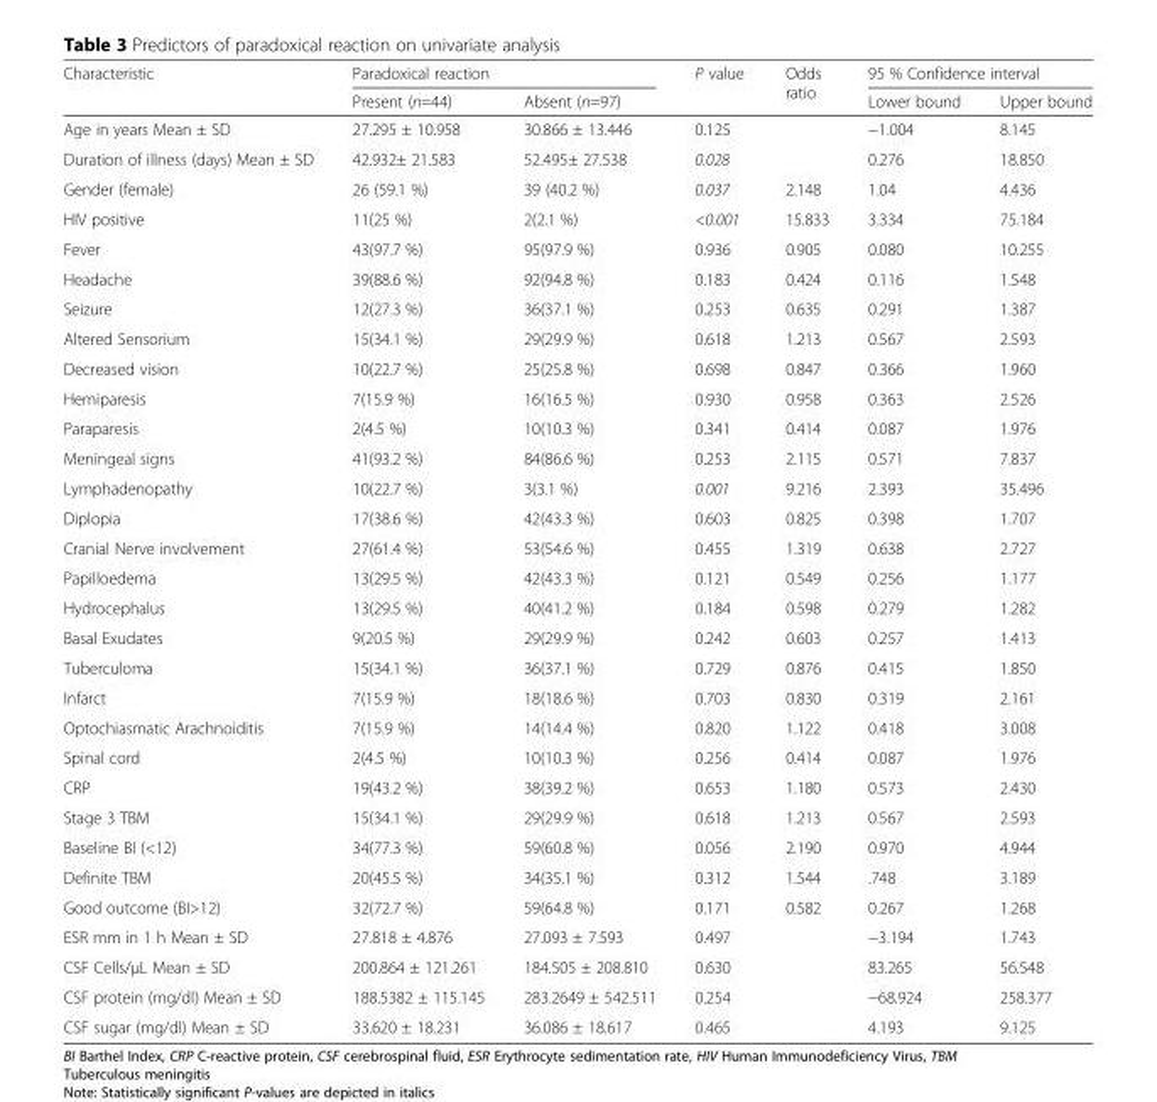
<table><thead><tr><td rowspan="2">Characteristic</td><td colspan="2">Paradoxical reaction</td><td rowspan="2">P value</td><td rowspan="2">Odds ratio</td><td colspan="2">95 % Confidence interval</td></tr><tr><td>Present (n=44)</td><td>Absent (n=97)</td><td>Lower bound</td><td>Upper bound</td></tr></thead><tbody><tr><td>Age in years Mean ± SD</td><td>27.295 ± 10.958</td><td>30.866 ± 13.446</td><td>0.125</td><td></td><td>−1.004</td><td>8.145</td></tr><tr><td>Duration of illness (days) Mean ± SD</td><td>42.932± 21.583</td><td>52.495± 27.538</td><td>0.028</td><td></td><td>0.276</td><td>18.850</td></tr><tr><td>Gender (female)</td><td>26 (59.1 %)</td><td>39 (40.2 %)</td><td>0.037</td><td>2.148</td><td>1.04</td><td>4.436</td></tr><tr><td>HIV positive</td><td>11(25 %)</td><td>2(2.1 %)</td><td>&lt;0.001</td><td>15.833</td><td>3.334</td><td>75.184</td></tr><tr><td>Fever</td><td>43(97.7 %)</td><td>95(97.9 %)</td><td>0.936</td><td>0.905</td><td>0.080</td><td>10.255</td></tr><tr><td>Headache</td><td>39(88.6 %)</td><td>92(94.8 %)</td><td>0.183</td><td>0.424</td><td>0.116</td><td>1.548</td></tr><tr><td>Seizure</td><td>12(27.3 %)</td><td>36(37.1 %)</td><td>0.253</td><td>0.635</td><td>0.291</td><td>1.387</td></tr><tr><td>Altered Sensorium</td><td>15(34.1 %)</td><td>29(29.9 %)</td><td>0.618</td><td>1.213</td><td>0.567</td><td>2.593</td></tr><tr><td>Decreased vision</td><td>10(22.7 %)</td><td>25(25.8 %)</td><td>0.698</td><td>0.847</td><td>0.366</td><td>1.960</td></tr><tr><td>Hemiparesis</td><td>7(15.9 %)</td><td>16(16.5 %)</td><td>0.930</td><td>0.958</td><td>0.363</td><td>2.526</td></tr><tr><td>Paraparesis</td><td>2(4.5 %)</td><td>10(10.3 %)</td><td>0.341</td><td>0.414</td><td>0.087</td><td>1.976</td></tr><tr><td>Meningeal signs</td><td>41(93.2 %)</td><td>84(86.6 %)</td><td>0.253</td><td>2.115</td><td>0.571</td><td>7.837</td></tr><tr><td>Lymphadenopathy</td><td>10(22.7 %)</td><td>3(3.1 %)</td><td>0.001</td><td>9.216</td><td>2.393</td><td>35.496</td></tr><tr><td>Diplopia</td><td>17(38.6 %)</td><td>42(43.3 %)</td><td>0.603</td><td>0.825</td><td>0.398</td><td>1.707</td></tr><tr><td>Cranial Nerve involvement</td><td>27(61.4 %)</td><td>53(54.6 %)</td><td>0.455</td><td>1.319</td><td>0.638</td><td>2.727</td></tr><tr><td>Papilloedema</td><td>13(29.5 %)</td><td>42(43.3 %)</td><td>0.121</td><td>0.549</td><td>0.256</td><td>1.177</td></tr><tr><td>Hydrocephalus</td><td>13(29.5 %)</td><td>40(41.2 %)</td><td>0.184</td><td>0.598</td><td>0.279</td><td>1.282</td></tr><tr><td>Basal Exudates</td><td>9(20.5 %)</td><td>29(29.9 %)</td><td>0.242</td><td>0.603</td><td>0.257</td><td>1.413</td></tr><tr><td>Tuberculoma</td><td>15(34.1 %)</td><td>36(37.1 %)</td><td>0.729</td><td>0.876</td><td>0.415</td><td>1.850</td></tr><tr><td>Infarct</td><td>7(15.9 %)</td><td>18(18.6 %)</td><td>0.703</td><td>0.830</td><td>0.319</td><td>2.161</td></tr><tr><td>Optochiasmatic Arachnoiditis</td><td>7(15.9 %)</td><td>14(14.4 %)</td><td>0.820</td><td>1.122</td><td>0.418</td><td>3.008</td></tr><tr><td>Spinal cord</td><td>2(4.5 %)</td><td>10(10.3 %)</td><td>0.256</td><td>0.414</td><td>0.087</td><td>1.976</td></tr><tr><td>CRP</td><td>19(43.2 %)</td><td>38(39.2 %)</td><td>0.653</td><td>1.180</td><td>0.573</td><td>2.430</td></tr><tr><td>Stage 3 TBM</td><td>15(34.1 %)</td><td>29(29.9 %)</td><td>0.618</td><td>1.213</td><td>0.567</td><td>2.593</td></tr><tr><td>Baseline BI (&lt;12)</td><td>34(77.3 %)</td><td>59(60.8 %)</td><td>0.056</td><td>2.190</td><td>0.970</td><td>4.944</td></tr><tr><td>Definite TBM</td><td>20(45.5 %)</td><td>34(35.1 %)</td><td>0.312</td><td>1.544</td><td>.748</td><td>3.189</td></tr><tr><td>Good outcome (BI&gt;12)</td><td>32(72.7 %)</td><td>59(64.8 %)</td><td>0.171</td><td>0.582</td><td>0.267</td><td>1.268</td></tr><tr><td>ESR mm in 1 h Mean ± SD</td><td>27.818 ± 4.876</td><td>27.093 ± 7.593</td><td>0.497</td><td></td><td>−3.194</td><td>1.743</td></tr><tr><td>CSF Cells/μL Mean ± SD</td><td>200.864 ± 121.261</td><td>184.505 ± 208.810</td><td>0.630</td><td></td><td>83.265</td><td>56.548</td></tr><tr><td>CSF protein (mg/dl) Mean ± SD</td><td>188.5382 ± 115.145</td><td>283.2649 ± 542.511</td><td>0.254</td><td></td><td>−68.924</td><td>258.377</td></tr><tr><td>CSF sugar (mg/dl) Mean ± SD</td><td>33.620 ± 18.231</td><td>36.086 ± 18.617</td><td>0.465</td><td></td><td>4.193</td><td>9.125</td></tr></tbody></table>